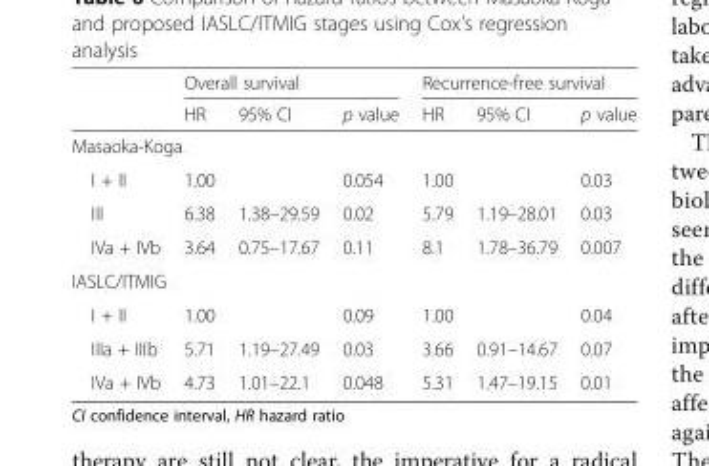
<table><thead><tr><td rowspan="2"></td><td colspan="3">Overall survival</td><td colspan="3">Recurrence-free survival</td></tr><tr><td>HR</td><td>95% CI</td><td>p value</td><td>HR</td><td>95% CI</td><td>p value</td></tr></thead><tbody><tr><td colspan="7">Masaoka-Koga</td></tr><tr><td>I + II</td><td>1.00</td><td></td><td>0.054</td><td>1.00</td><td></td><td>0.03</td></tr><tr><td>III</td><td>6.38</td><td>1.38–29.59</td><td>0.02</td><td>5.79</td><td>1.19–28.01</td><td>0.03</td></tr><tr><td>IVa + IVb</td><td>3.64</td><td>0.75–17.67</td><td>0.11</td><td>8.1</td><td>1.78–36.79</td><td>0.007</td></tr><tr><td colspan="7">IASLC/ITMIG</td></tr><tr><td>I + II</td><td>1.00</td><td></td><td>0.09</td><td>1.00</td><td></td><td>0.04</td></tr><tr><td>IIIa + IIIb</td><td>5.71</td><td>1.19–27.49</td><td>0.03</td><td>3.66</td><td>0.91–14.67</td><td>0.07</td></tr><tr><td>IVa + IVb</td><td>4.73</td><td>1.01–22.1</td><td>0.048</td><td>5.31</td><td>1.47–19.15</td><td>0.01</td></tr></tbody></table>